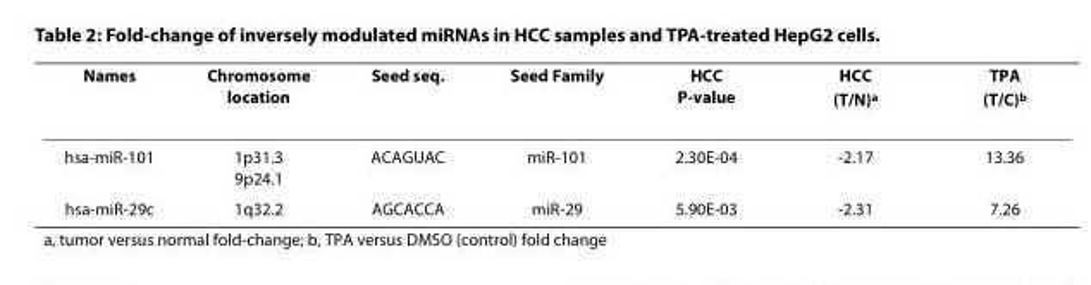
<table><thead><tr><td>Names</td><td>Chromosome location</td><td>Seed seq.</td><td>Seed Family</td><td>HCC P-value</td><td>HCC (T/N)<sup>a</sup></td><td>TPA (T/C)<sup>b</sup></td></tr></thead><tbody><tr><td>hsa-miR-101</td><td>1p31.3 9p24.1</td><td>ACAGUAC</td><td>miR-101</td><td>2.30E-04</td><td>-2.17</td><td>13.36</td></tr><tr><td>hsa-miR-29c</td><td>1q32.2</td><td>AGCACCA</td><td>miR-29</td><td>5.90E-03</td><td>-2.31</td><td>7.26</td></tr></tbody></table>